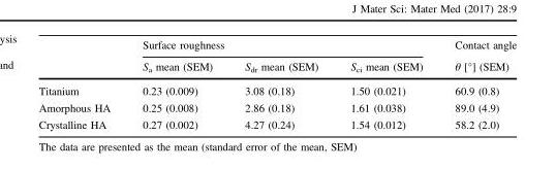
<table><thead><tr><td rowspan="2"></td><td colspan="3">Surface roughness</td><td rowspan="2">Contact angle θ [°] (SEM)</td></tr><tr><td>S<sub>a</sub> mean (SEM)</td><td>S<sub>dr</sub> mean (SEM)</td><td>S<sub>ci</sub> mean (SEM)</td></tr></thead><tbody><tr><td>Titanium</td><td>0.23 (0.009)</td><td>3.08 (0.18)</td><td>1.50 (0.021)</td><td>60.9 (0.8)</td></tr><tr><td>Amorphous HA</td><td>0.25 (0.008)</td><td>2.86 (0.18)</td><td>1.61 (0.038)</td><td>89.0 (4.9)</td></tr><tr><td>Crystalline HA</td><td>0.27 (0.002)</td><td>4.27 (0.24)</td><td>1.54 (0.012)</td><td>58.2 (2.0)</td></tr></tbody></table>